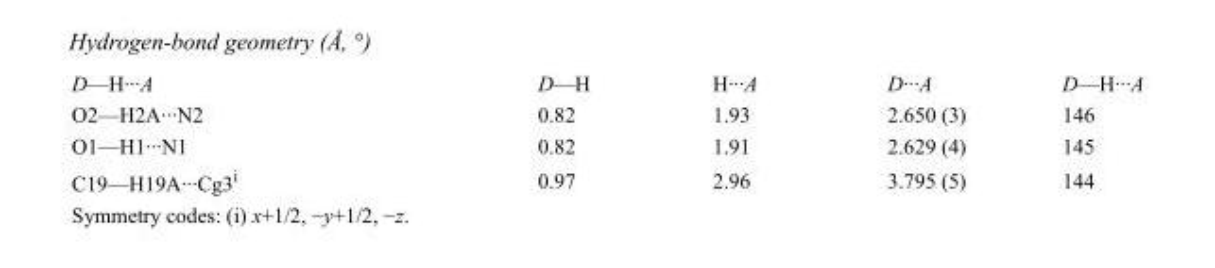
<table><tbody><tr><td>D—H···A</td><td>D—H</td><td>H···A</td><td>D···A</td><td>D—H···A</td></tr><tr><td>O2—H2A···N2</td><td>0.82</td><td>1.93</td><td>2.650 (3)</td><td>146</td></tr><tr><td>O1—H1···N1</td><td>0.82</td><td>1.91</td><td>2.629 (4)</td><td>145</td></tr><tr><td>C19—H19A···Cg3<sup>i</sup></td><td>0.97</td><td>2.96</td><td>3.795 (5)</td><td>144</td></tr></tbody></table>